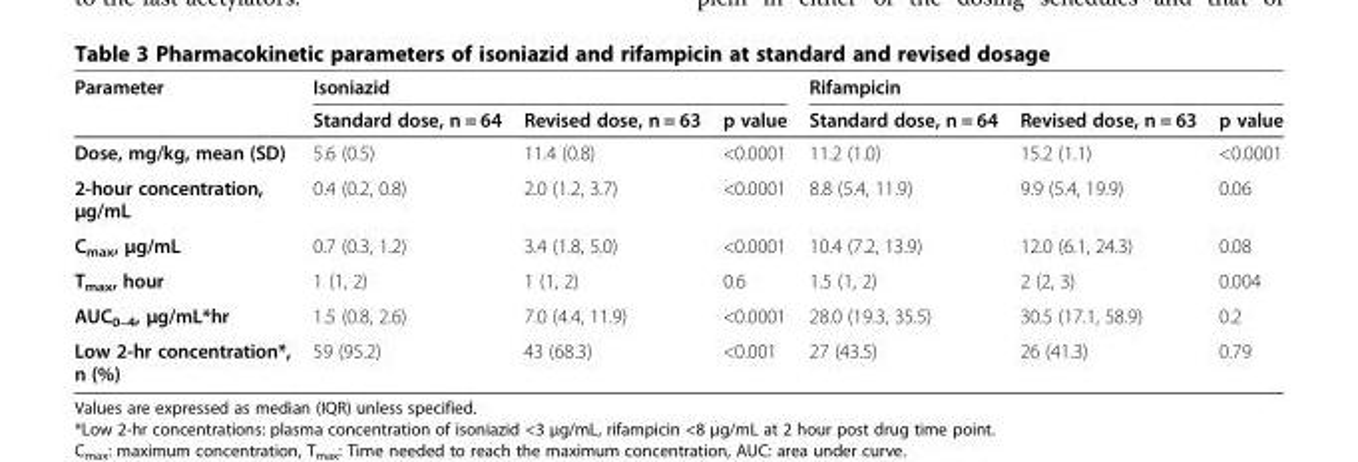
<table><thead><tr><td rowspan="2">Parameter</td><td colspan="3">Isoniazid</td><td colspan="3">Rifampicin</td></tr><tr><td>Standard dose, n = 64</td><td>Revised dose, n = 63</td><td>p value</td><td>Standard dose, n = 64</td><td>Revised dose, n = 63</td><td>p value</td></tr></thead><tbody><tr><td>Dose, mg/kg, mean (SD)</td><td>5.6 (0.5)</td><td>11.4 (0.8)</td><td>&lt;0.0001</td><td>11.2 (1.0)</td><td>15.2 (1.1)</td><td>&lt;0.0001</td></tr><tr><td>2-hour concentration, μg/mL</td><td>0.4 (0.2, 0.8)</td><td>2.0 (1.2, 3.7)</td><td>&lt;0.0001</td><td>8.8 (5.4, 11.9)</td><td>9.9 (5.4, 19.9)</td><td>0.06</td></tr><tr><td>C<sub>max</sub>, μg/mL</td><td>0.7 (0.3, 1.2)</td><td>3.4 (1.8, 5.0)</td><td>&lt;0.0001</td><td>10.4 (7.2, 13.9)</td><td>12.0 (6.1, 24.3)</td><td>0.08</td></tr><tr><td>T<sub>max</sub>, hour</td><td>1 (1, 2)</td><td>1 (1, 2)</td><td>0.6</td><td>1.5 (1, 2)</td><td>2 (2, 3)</td><td>0.004</td></tr><tr><td>AUC<sub>0–4</sub>, μg/mL*hr</td><td>1.5 (0.8, 2.6)</td><td>7.0 (4.4, 11.9)</td><td>&lt;0.0001</td><td>28.0 (19.3, 35.5)</td><td>30.5 (17.1, 58.9)</td><td>0.2</td></tr><tr><td>Low 2-hr concentration*, n (%)</td><td>59 (95.2)</td><td>43 (68.3)</td><td>&lt;0.001</td><td>27 (43.5)</td><td>26 (41.3)</td><td>0.79</td></tr></tbody></table>